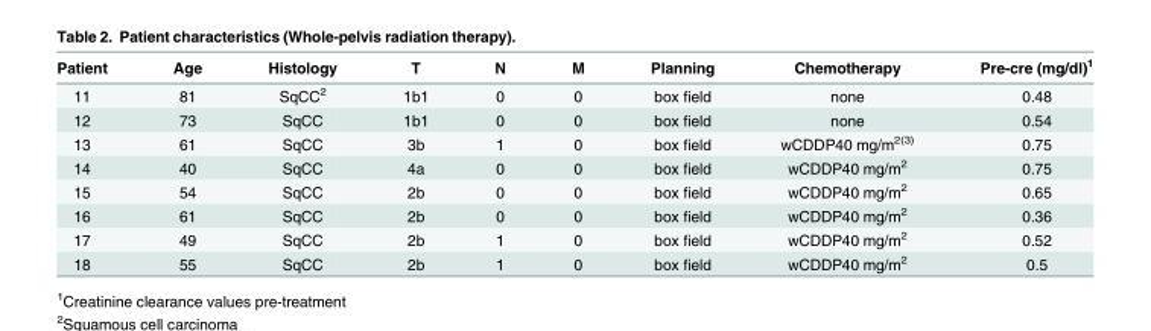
<table><thead><tr><td>Patient</td><td>Age</td><td>Histology</td><td>T</td><td>N</td><td>M</td><td>Planning</td><td>Chemotherapy</td><td>Pre-cre (mg/dl)<sup>1</sup></td></tr></thead><tbody><tr><td>11</td><td>81</td><td>SqCC<sup>2</sup></td><td>1b1</td><td>0</td><td>0</td><td>box field</td><td>none</td><td>0.48</td></tr><tr><td>12</td><td>73</td><td>SqCC</td><td>1b1</td><td>0</td><td>0</td><td>box field</td><td>none</td><td>0.54</td></tr><tr><td>13</td><td>61</td><td>SqCC</td><td>3b</td><td>1</td><td>0</td><td>box field</td><td>wCDDP40 mg/m<sup>2(3)</sup></td><td>0.75</td></tr><tr><td>14</td><td>40</td><td>SqCC</td><td>4a</td><td>0</td><td>0</td><td>box field</td><td>wCDDP40 mg/m<sup>2</sup></td><td>0.75</td></tr><tr><td>15</td><td>54</td><td>SqCC</td><td>2b</td><td>0</td><td>0</td><td>box field</td><td>wCDDP40 mg/m<sup>2</sup></td><td>0.65</td></tr><tr><td>16</td><td>61</td><td>SqCC</td><td>2b</td><td>0</td><td>0</td><td>box field</td><td>wCDDP40 mg/m<sup>2</sup></td><td>0.36</td></tr><tr><td>17</td><td>49</td><td>SqCC</td><td>2b</td><td>1</td><td>0</td><td>box field</td><td>wCDDP40 mg/m<sup>2</sup></td><td>0.52</td></tr><tr><td>18</td><td>55</td><td>SqCC</td><td>2b</td><td>1</td><td>0</td><td>box field</td><td>wCDDP40 mg/m<sup>2</sup></td><td>0.5</td></tr></tbody></table>